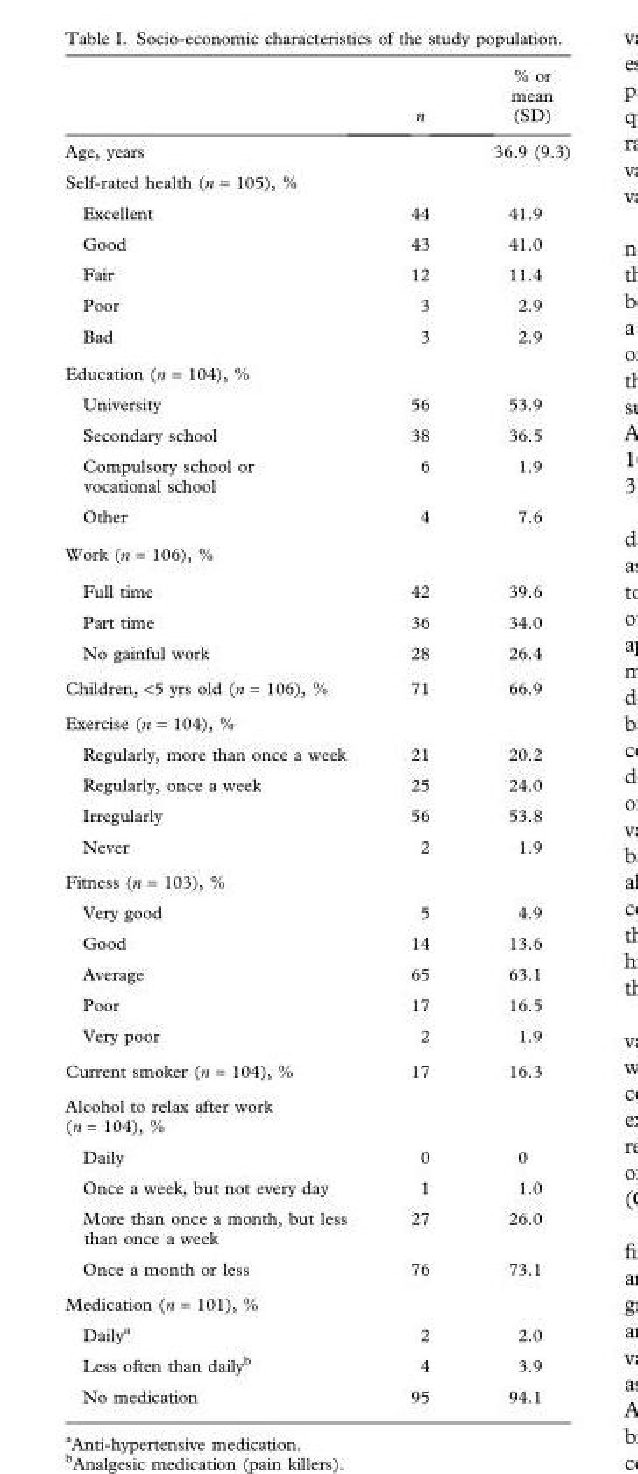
<table><thead><tr><td></td><td>n</td><td>% or mean (SD)</td></tr></thead><tbody><tr><td>Age, years</td><td></td><td>36.9 (9.3)</td></tr><tr><td colspan="3">Self-rated health (n = 105), %</td></tr><tr><td>Excellent</td><td>44</td><td>41.9</td></tr><tr><td>Good</td><td>43</td><td>41.0</td></tr><tr><td>Fair</td><td>12</td><td>11.4</td></tr><tr><td>Poor</td><td>3</td><td>2.9</td></tr><tr><td>Bad</td><td>3</td><td>2.9</td></tr><tr><td colspan="3">Education (n = 104), %</td></tr><tr><td>University</td><td>56</td><td>53.9</td></tr><tr><td>Secondary school</td><td>38</td><td>36.5</td></tr><tr><td>Compulsory school or vocational school</td><td>6</td><td>1.9</td></tr><tr><td>Other</td><td>4</td><td>7.6</td></tr><tr><td colspan="3">Work (n = 106), %</td></tr><tr><td>Full time</td><td>42</td><td>39.6</td></tr><tr><td>Part time</td><td>36</td><td>34.0</td></tr><tr><td>No gainful work</td><td>28</td><td>26.4</td></tr><tr><td>Children, &lt;5 yrs old (n = 106), %</td><td>71</td><td>66.9</td></tr><tr><td colspan="3">Exercise (n = 104), %</td></tr><tr><td>Regularly, more than once a week</td><td>21</td><td>20.2</td></tr><tr><td>Regularly, once a week</td><td>25</td><td>24.0</td></tr><tr><td>Irregularly</td><td>56</td><td>53.8</td></tr><tr><td>Never</td><td>2</td><td>1.9</td></tr><tr><td colspan="3">Fitness (n = 103), %</td></tr><tr><td>Very good</td><td>5</td><td>4.9</td></tr><tr><td>Good</td><td>14</td><td>13.6</td></tr><tr><td>Average</td><td>65</td><td>63.1</td></tr><tr><td>Poor</td><td>17</td><td>16.5</td></tr><tr><td>Very poor</td><td>2</td><td>1.9</td></tr><tr><td>Current smoker (n = 104), %</td><td>17</td><td>16.3</td></tr><tr><td colspan="3">Alcohol to relax after work (n = 104), %</td></tr><tr><td>Daily</td><td>0</td><td>0</td></tr><tr><td>Once a week, but not every day</td><td>1</td><td>1.0</td></tr><tr><td>More than once a month, but less than once a week</td><td>27</td><td>26.0</td></tr><tr><td>Once a month or less</td><td>76</td><td>73.1</td></tr><tr><td colspan="3">Medication (n = 101), %</td></tr><tr><td>Daily<sup>a</sup></td><td>2</td><td>2.0</td></tr><tr><td>Less often than daily<sup>b</sup></td><td>4</td><td>3.9</td></tr><tr><td>No medication</td><td>95</td><td>94.1</td></tr></tbody></table>